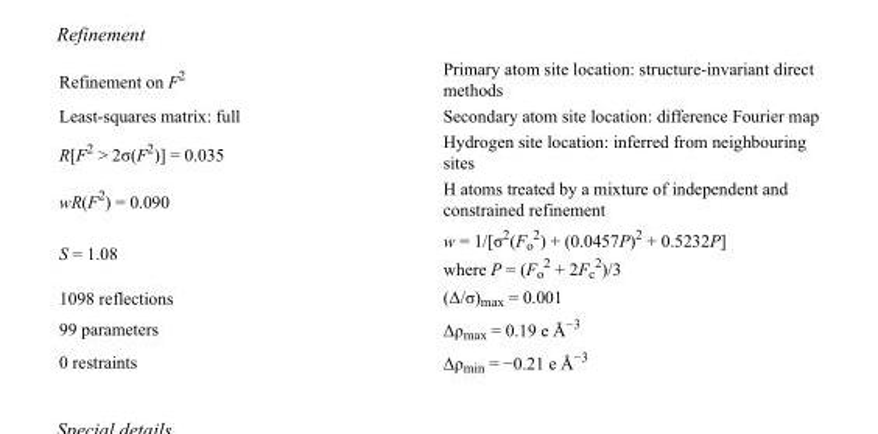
<table><tbody><tr><td>Refinement on F<sup>2</sup></td><td>Primary atom site location: structure-invariant direct methods</td></tr><tr><td>Least-squares matrix: full</td><td>Secondary atom site location: difference Fourier map</td></tr><tr><td>R[F<sup>2</sup> &gt; 2σ(F<sup>2</sup>)] = 0.035</td><td>Hydrogen site location: inferred from neighbouring sites</td></tr><tr><td>wR(F<sup>2</sup>) = 0.090</td><td>H atoms treated by a mixture of independent and constrained refinement</td></tr><tr><td>S = 1.08</td><td>w = 1/[σ<sup>2</sup>(F<sub>o</sub> <sup>2</sup>) + (0.0457P)<sup>2</sup> + 0.5232P] where P = (F<sub>o</sub> <sup>2</sup> + 2F<sub>c</sub> <sup>2</sup>)/3</td></tr><tr><td>1098 reflections</td><td>(Δ/σ)<sub>max</sub> = 0.001</td></tr><tr><td>99 parameters</td><td>Δρ<sub>max</sub> = 0.19 e Å<sup>−3</sup></td></tr><tr><td>0 restraints</td><td>Δρ<sub>min</sub> = −0.21 e Å<sup>−3</sup></td></tr></tbody></table>